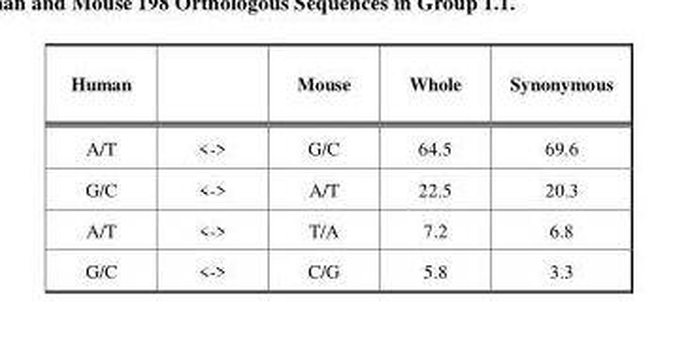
<table><thead><tr><td>Human</td><td></td><td>Mouse</td><td>Whole</td><td>Synonymous</td></tr></thead><tbody><tr><td>A/T</td><td>&lt;-&gt;</td><td>G/C</td><td>64.5</td><td>69.6</td></tr><tr><td>G/C</td><td>&lt;-&gt;</td><td>A/T</td><td>22.5</td><td>20.3</td></tr><tr><td>A/T</td><td>&lt;-&gt;</td><td>T/A</td><td>7.2</td><td>6.8</td></tr><tr><td>G/C</td><td>&lt;-&gt;</td><td>C/G</td><td>5.8</td><td>3.3</td></tr></tbody></table>